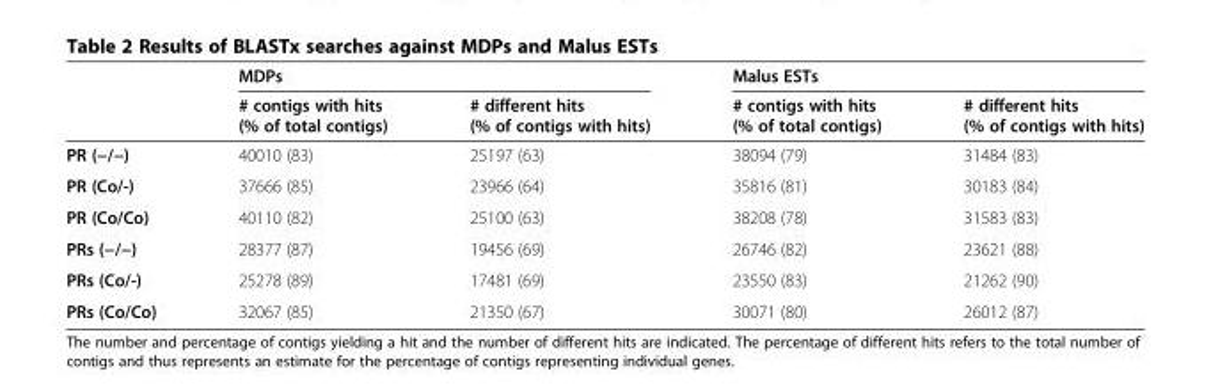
<table><thead><tr><td rowspan="2"></td><td colspan="2">MDPs</td><td colspan="2">Malus ESTs</td></tr><tr><td># contigs with hits (% of total contigs)</td><td># different hits (% of contigs with hits)</td><td># contigs with hits (% of total contigs)</td><td># different hits (% of contigs with hits)</td></tr></thead><tbody><tr><td>PR (−/−)</td><td>40010 (83)</td><td>25197 (63)</td><td>38094 (79)</td><td>31484 (83)</td></tr><tr><td>PR (Co/-)</td><td>37666 (85)</td><td>23966 (64)</td><td>35816 (81)</td><td>30183 (84)</td></tr><tr><td>PR (Co/Co)</td><td>40110 (82)</td><td>25100 (63)</td><td>38208 (78)</td><td>31583 (83)</td></tr><tr><td>PRs (−/−)</td><td>28377 (87)</td><td>19456 (69)</td><td>26746 (82)</td><td>23621 (88)</td></tr><tr><td>PRs (Co/-)</td><td>25278 (89)</td><td>17481 (69)</td><td>23550 (83)</td><td>21262 (90)</td></tr><tr><td>PRs (Co/Co)</td><td>32067 (85)</td><td>21350 (67)</td><td>30071 (80)</td><td>26012 (87)</td></tr></tbody></table>